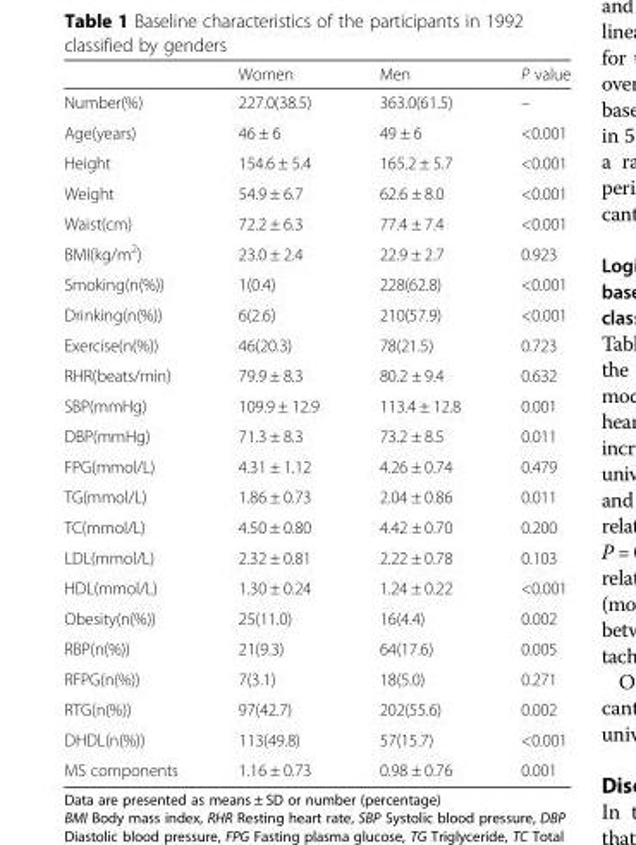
<table><thead><tr><td></td><td>Women</td><td>Men</td><td>P value</td></tr></thead><tbody><tr><td>Number(%)</td><td>227.0(38.5)</td><td>363.0(61.5)</td><td>–</td></tr><tr><td>Age(years)</td><td>46 ± 6</td><td>49 ± 6</td><td>&lt;0.001</td></tr><tr><td>Height</td><td>154.6 ± 5.4</td><td>165.2 ± 5.7</td><td>&lt;0.001</td></tr><tr><td>Weight</td><td>54.9 ± 6.7</td><td>62.6 ± 8.0</td><td>&lt;0.001</td></tr><tr><td>Waist(cm)</td><td>72.2 ± 6.3</td><td>77.4 ± 7.4</td><td>&lt;0.001</td></tr><tr><td>BMI(kg/m<sup>2</sup>)</td><td>23.0 ± 2.4</td><td>22.9 ± 2.7</td><td>0.923</td></tr><tr><td>Smoking(n(%))</td><td>1(0.4)</td><td>228(62.8)</td><td>&lt;0.001</td></tr><tr><td>Drinking(n(%))</td><td>6(2.6)</td><td>210(57.9)</td><td>&lt;0.001</td></tr><tr><td>Exercise(n(%))</td><td>46(20.3)</td><td>78(21.5)</td><td>0.723</td></tr><tr><td>RHR(beats/min)</td><td>79.9 ± 8.3</td><td>80.2 ± 9.4</td><td>0.632</td></tr><tr><td>SBP(mmHg)</td><td>109.9 ± 12.9</td><td>113.4 ± 12.8</td><td>0.001</td></tr><tr><td>DBP(mmHg)</td><td>71.3 ± 8.3</td><td>73.2 ± 8.5</td><td>0.011</td></tr><tr><td>FPG(mmol/L)</td><td>4.31 ± 1.12</td><td>4.26 ± 0.74</td><td>0.479</td></tr><tr><td>TG(mmol/L)</td><td>1.86 ± 0.73</td><td>2.04 ± 0.86</td><td>0.011</td></tr><tr><td>TC(mmol/L)</td><td>4.50 ± 0.80</td><td>4.42 ± 0.70</td><td>0.200</td></tr><tr><td>LDL(mmol/L)</td><td>2.32 ± 0.81</td><td>2.22 ± 0.78</td><td>0.103</td></tr><tr><td>HDL(mmol/L)</td><td>1.30 ± 0.24</td><td>1.24 ± 0.22</td><td>&lt;0.001</td></tr><tr><td>Obesity(n(%))</td><td>25(11.0)</td><td>16(4.4)</td><td>0.002</td></tr><tr><td>RBP(n(%))</td><td>21(9.3)</td><td>64(17.6)</td><td>0.005</td></tr><tr><td>RFPG(n(%))</td><td>7(3.1)</td><td>18(5.0)</td><td>0.271</td></tr><tr><td>RTG(n(%))</td><td>97(42.7)</td><td>202(55.6)</td><td>0.002</td></tr><tr><td>DHDL(n(%))</td><td>113(49.8)</td><td>57(15.7)</td><td>&lt;0.001</td></tr><tr><td>MS components</td><td>1.16 ± 0.73</td><td>0.98 ± 0.76</td><td>0.001</td></tr></tbody></table>